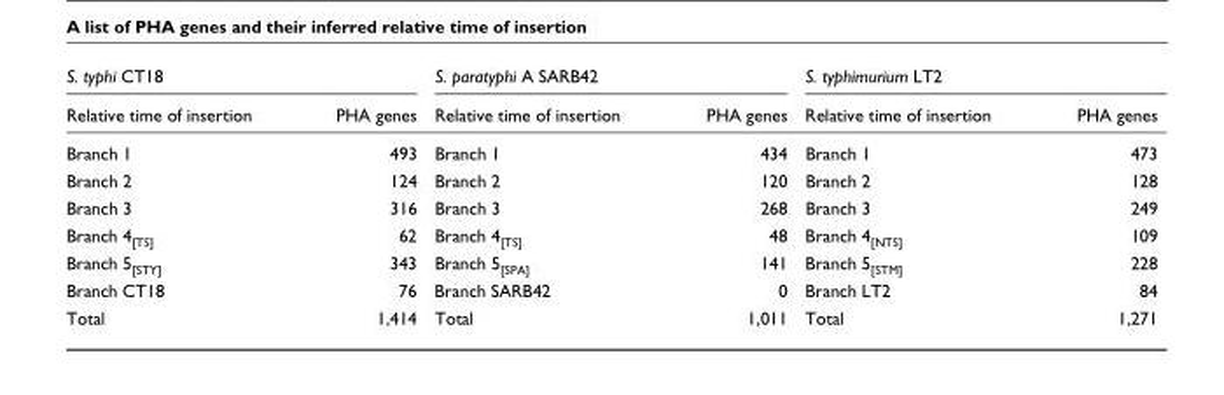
<table><thead><tr><td colspan="2">S. typhi CT18</td><td colspan="2">S. paratyphi A SARB42</td><td colspan="2">S. typhimurium LT2</td></tr><tr><td>Relative time of insertion</td><td>PHA genes</td><td>Relative time of insertion</td><td>PHA genes</td><td>Relative time of insertion</td><td>PHA genes</td></tr></thead><tbody><tr><td>Branch 1</td><td>493</td><td>Branch 1</td><td>434</td><td>Branch 1</td><td>473</td></tr><tr><td>Branch 2</td><td>124</td><td>Branch 2</td><td>120</td><td>Branch 2</td><td>128</td></tr><tr><td>Branch 3</td><td>316</td><td>Branch 3</td><td>268</td><td>Branch 3</td><td>249</td></tr><tr><td>Branch 4<sub>[TS]</sub></td><td>62</td><td>Branch 4<sub>[TS]</sub></td><td>48</td><td>Branch 4<sub>[NTS]</sub></td><td>109</td></tr><tr><td>Branch 5<sub>[STY]</sub></td><td>343</td><td>Branch 5<sub>[SPA]</sub></td><td>141</td><td>Branch 5<sub>[STM]</sub></td><td>228</td></tr><tr><td>Branch CT18</td><td>76</td><td>Branch SARB42</td><td>0</td><td>Branch LT2</td><td>84</td></tr><tr><td>Total</td><td>1,414</td><td>Total</td><td>1,011</td><td>Total</td><td>1,271</td></tr></tbody></table>